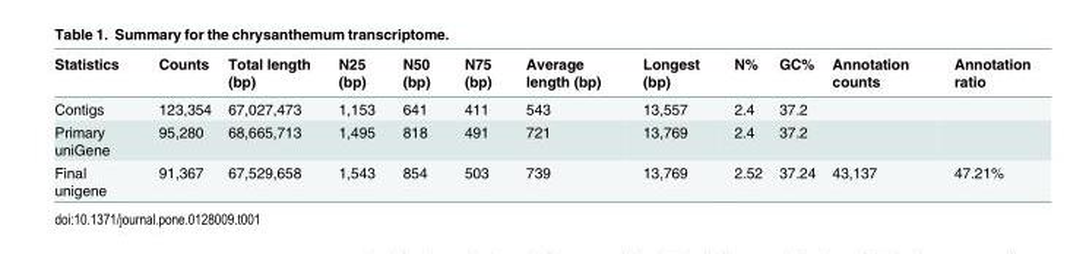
<table><thead><tr><td>Statistics</td><td>Counts</td><td>Total length (bp)</td><td>N25 (bp)</td><td>N50 (bp)</td><td>N75 (bp)</td><td>Average length (bp)</td><td>Longest (bp)</td><td>N%</td><td>GC%</td><td>Annotation counts</td><td>Annotation ratio</td></tr></thead><tbody><tr><td>Contigs</td><td>123,354</td><td>67,027,473</td><td>1,153</td><td>641</td><td>411</td><td>543</td><td>13,557</td><td>2.4</td><td>37.2</td><td></td><td></td></tr><tr><td>Primary uniGene</td><td>95,280</td><td>68,665,713</td><td>1,495</td><td>818</td><td>491</td><td>721</td><td>13,769</td><td>2.4</td><td>37.2</td><td></td><td></td></tr><tr><td>Final unigene</td><td>91,367</td><td>67,529,658</td><td>1,543</td><td>854</td><td>503</td><td>739</td><td>13,769</td><td>2.52</td><td>37.24</td><td>43,137</td><td>47.21%</td></tr></tbody></table>